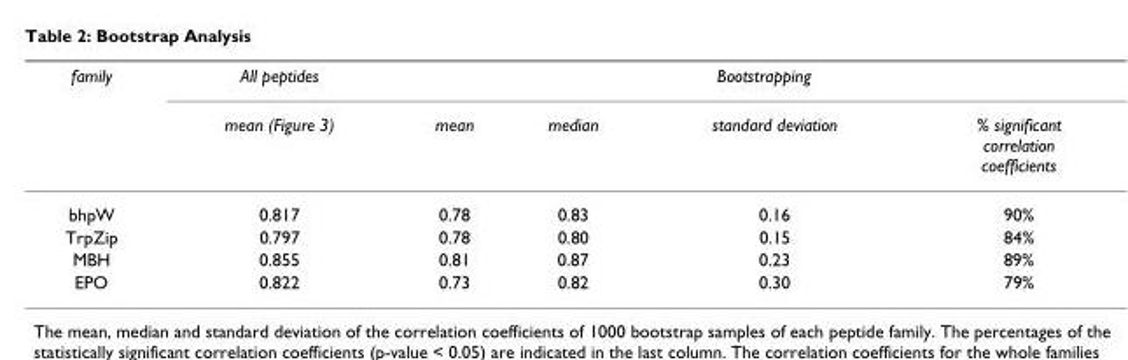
<table><thead><tr><td rowspan="2">family</td><td rowspan="2">All peptides mean (Figure 3)</td><td colspan="4">Bootstrapping</td></tr><tr><td>mean</td><td>median</td><td>standard deviation</td><td>% significant correlation coefficients</td></tr></thead><tbody><tr><td>bhpW</td><td>0.817</td><td>0.78</td><td>0.83</td><td>0.16</td><td>90%</td></tr><tr><td>TrpZip</td><td>0.797</td><td>0.78</td><td>0.80</td><td>0.15</td><td>84%</td></tr><tr><td>MBH</td><td>0.855</td><td>0.81</td><td>0.87</td><td>0.23</td><td>89%</td></tr><tr><td>EPO</td><td>0.822</td><td>0.73</td><td>0.82</td><td>0.30</td><td>79%</td></tr></tbody></table>